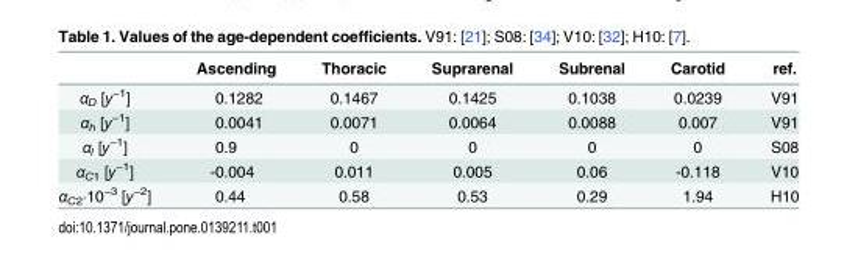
<table><thead><tr><td></td><td>Ascending</td><td>Thoracic</td><td>Suprarenal</td><td>Subrenal</td><td>Carotid</td><td>ref.</td></tr></thead><tbody><tr><td>α<sub>D</sub> [y<sup>−1</sup>]</td><td>0.1282</td><td>0.1467</td><td>0.1425</td><td>0.1038</td><td>0.0239</td><td>V91</td></tr><tr><td>α<sub>h</sub> [y<sup>−1</sup>]</td><td>0.0041</td><td>0.0071</td><td>0.0064</td><td>0.0088</td><td>0.007</td><td>V91</td></tr><tr><td>α<sub>l</sub> [y<sup>−1</sup>]</td><td>0.9</td><td>0</td><td>0</td><td>0</td><td>0</td><td>S08</td></tr><tr><td>α<sub>C1</sub> [y<sup>−1</sup>]</td><td>-0.004</td><td>0.011</td><td>0.005</td><td>0.06</td><td>-0.118</td><td>V10</td></tr><tr><td>α<sub>C2</sub>⋅10<sup>−3</sup> [y<sup>−2</sup>]</td><td>0.44</td><td>0.58</td><td>0.53</td><td>0.29</td><td>1.94</td><td>H10</td></tr></tbody></table>